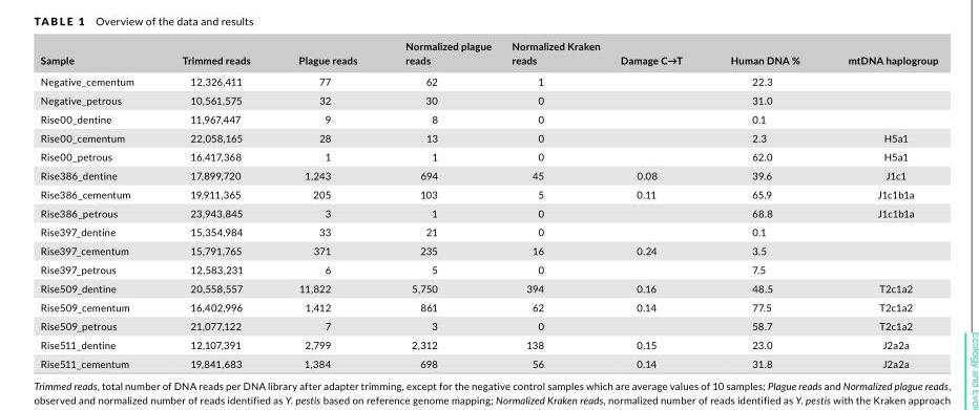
<table><thead><tr><td>Sample</td><td>Trimmed reads</td><td>Plague reads</td><td>Normalized plague reads</td><td>Normalized Kraken reads</td><td>Damage C→T</td><td>Human DNA %</td><td>mtDNA haplogroup</td></tr></thead><tbody><tr><td>Negative_cementum</td><td>12,326,411</td><td>77</td><td>62</td><td>1</td><td></td><td>22.3</td><td></td></tr><tr><td>Negative_petrous</td><td>10,561,575</td><td>32</td><td>30</td><td>0</td><td></td><td>31.0</td><td></td></tr><tr><td>Rise00_dentine</td><td>11,967,447</td><td>9</td><td>8</td><td>0</td><td></td><td>0.1</td><td></td></tr><tr><td>Rise00_cementum</td><td>22,058,165</td><td>28</td><td>13</td><td>0</td><td></td><td>2.3</td><td>H5a1</td></tr><tr><td>Rise00_petrous</td><td>16,417,368</td><td>1</td><td>1</td><td>0</td><td></td><td>62.0</td><td>H5a1</td></tr><tr><td>Rise386_dentine</td><td>17,899,720</td><td>1,243</td><td>694</td><td>45</td><td>0.08</td><td>39.6</td><td>J1c1</td></tr><tr><td>Rise386_cementum</td><td>19,911,365</td><td>205</td><td>103</td><td>5</td><td>0.11</td><td>65.9</td><td>J1c1b1a</td></tr><tr><td>Rise386_petrous</td><td>23,943,845</td><td>3</td><td>1</td><td>0</td><td></td><td>68.8</td><td>J1c1b1a</td></tr><tr><td>Rise397_dentine</td><td>15,354,984</td><td>33</td><td>21</td><td>0</td><td></td><td>0.1</td><td></td></tr><tr><td>Rise397_cementum</td><td>15,791,765</td><td>371</td><td>235</td><td>16</td><td>0.24</td><td>3.5</td><td></td></tr><tr><td>Rise397_petrous</td><td>12,583,231</td><td>6</td><td>5</td><td>0</td><td></td><td>7.5</td><td></td></tr><tr><td>Rise509_dentine</td><td>20,558,557</td><td>11,822</td><td>5,750</td><td>394</td><td>0.16</td><td>48.5</td><td>T2c1a2</td></tr><tr><td>Rise509_cementum</td><td>16,402,996</td><td>1,412</td><td>861</td><td>62</td><td>0.14</td><td>77.5</td><td>T2c1a2</td></tr><tr><td>Rise509_petrous</td><td>21,077,122</td><td>7</td><td>3</td><td>0</td><td></td><td>58.7</td><td>T2c1a2</td></tr><tr><td>Rise511_dentine</td><td>12,107,391</td><td>2,799</td><td>2,312</td><td>138</td><td>0.15</td><td>23.0</td><td>J2a2a</td></tr><tr><td>Rise511_cementum</td><td>19,841,683</td><td>1,384</td><td>698</td><td>56</td><td>0.14</td><td>31.8</td><td>J2a2a</td></tr></tbody></table>